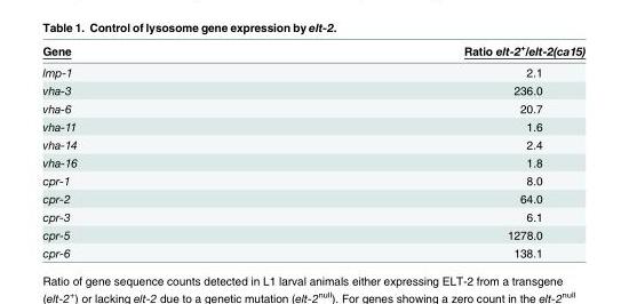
<table><thead><tr><td>Gene</td><td>Ratio elt-2<sup>+</sup>/elt-2(ca15)</td></tr></thead><tbody><tr><td>lmp-1</td><td>2.1</td></tr><tr><td>vha-3</td><td>236.0</td></tr><tr><td>vha-6</td><td>20.7</td></tr><tr><td>vha-11</td><td>1.6</td></tr><tr><td>vha-14</td><td>2.4</td></tr><tr><td>vha-16</td><td>1.8</td></tr><tr><td>cpr-1</td><td>8.0</td></tr><tr><td>cpr-2</td><td>64.0</td></tr><tr><td>cpr-3</td><td>6.1</td></tr><tr><td>cpr-5</td><td>1278.0</td></tr><tr><td>cpr-6</td><td>138.1</td></tr></tbody></table>